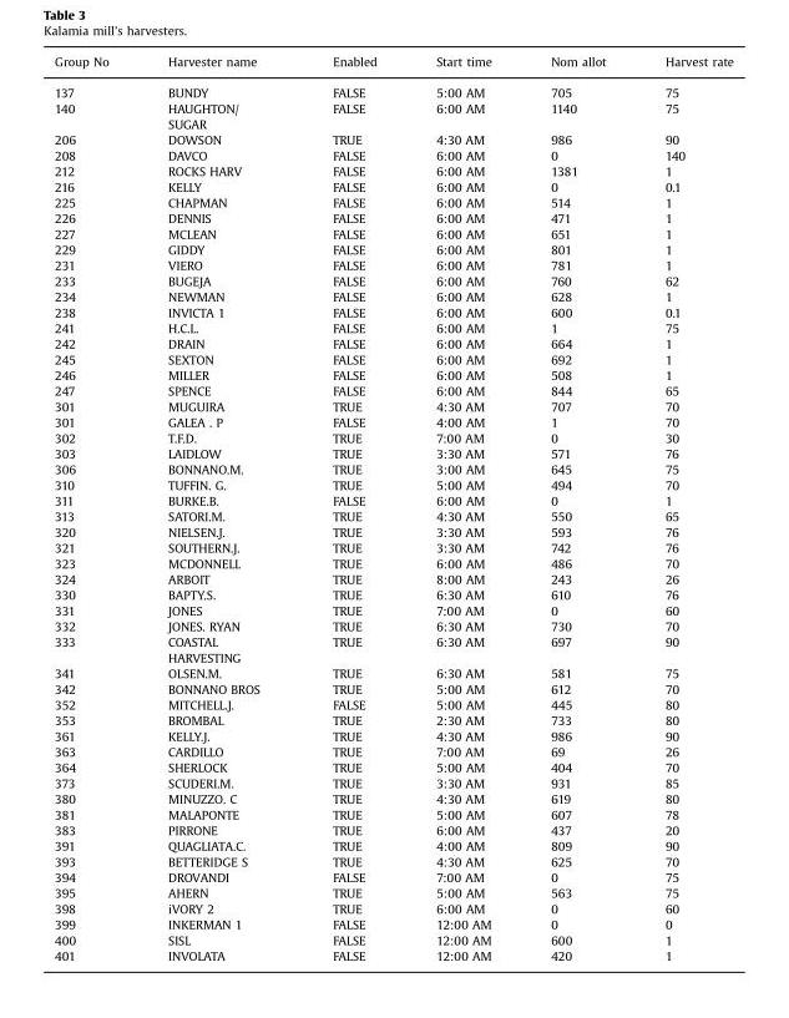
<table><thead><tr><td>Group No</td><td>Harvester name</td><td>Enabled</td><td>Start time</td><td>Nom allot</td><td>Harvest rate</td></tr></thead><tbody><tr><td>137</td><td>BUNDY</td><td>FALSE</td><td>5:00 AM</td><td>705</td><td>75</td></tr><tr><td>140</td><td>HAUGHTON/ SUGAR</td><td>FALSE</td><td>6:00 AM</td><td>1140</td><td>75</td></tr><tr><td>206</td><td>DOWSON</td><td>TRUE</td><td>4:30 AM</td><td>986</td><td>90</td></tr><tr><td>208</td><td>DAVCO</td><td>FALSE</td><td>6:00 AM</td><td>0</td><td>140</td></tr><tr><td>212</td><td>ROCKS HARV</td><td>FALSE</td><td>6:00 AM</td><td>1381</td><td>1</td></tr><tr><td>216</td><td>KELLY</td><td>FALSE</td><td>6:00 AM</td><td>0</td><td>0.1</td></tr><tr><td>225</td><td>CHAPMAN</td><td>FALSE</td><td>6:00 AM</td><td>514</td><td>1</td></tr><tr><td>226</td><td>DENNIS</td><td>FALSE</td><td>6:00 AM</td><td>471</td><td>1</td></tr><tr><td>227</td><td>MCLEAN</td><td>FALSE</td><td>6:00 AM</td><td>651</td><td>1</td></tr><tr><td>229</td><td>GIDDY</td><td>FALSE</td><td>6:00 AM</td><td>801</td><td>1</td></tr><tr><td>231</td><td>VIERO</td><td>FALSE</td><td>6:00 AM</td><td>781</td><td>1</td></tr><tr><td>233</td><td>BUGEJA</td><td>FALSE</td><td>6:00 AM</td><td>760</td><td>62</td></tr><tr><td>234</td><td>NEWMAN</td><td>FALSE</td><td>6:00 AM</td><td>628</td><td>1</td></tr><tr><td>238</td><td>INVICTA 1</td><td>FALSE</td><td>6:00 AM</td><td>600</td><td>0.1</td></tr><tr><td>241</td><td>H.C.L.</td><td>FALSE</td><td>6:00 AM</td><td>1</td><td>75</td></tr><tr><td>242</td><td>DRAIN</td><td>FALSE</td><td>6:00 AM</td><td>664</td><td>1</td></tr><tr><td>245</td><td>SEXTON</td><td>FALSE</td><td>6:00 AM</td><td>692</td><td>1</td></tr><tr><td>246</td><td>MILLER</td><td>FALSE</td><td>6:00 AM</td><td>508</td><td>1</td></tr><tr><td>247</td><td>SPENCE</td><td>FALSE</td><td>6:00 AM</td><td>844</td><td>65</td></tr><tr><td>301</td><td>MUGUIRA</td><td>TRUE</td><td>4:30 AM</td><td>707</td><td>70</td></tr><tr><td>301</td><td>GALEA . P</td><td>FALSE</td><td>4:00 AM</td><td>1</td><td>70</td></tr><tr><td>302</td><td>T.F.D.</td><td>TRUE</td><td>7:00 AM</td><td>0</td><td>30</td></tr><tr><td>303</td><td>LAIDLOW</td><td>TRUE</td><td>3:30 AM</td><td>571</td><td>76</td></tr><tr><td>306</td><td>BONNANO.M.</td><td>TRUE</td><td>3:00 AM</td><td>645</td><td>75</td></tr><tr><td>310</td><td>TUFFIN. G.</td><td>TRUE</td><td>5:00 AM</td><td>494</td><td>70</td></tr><tr><td>311</td><td>BURKE.B.</td><td>FALSE</td><td>6:00 AM</td><td>0</td><td>1</td></tr><tr><td>313</td><td>SATORI.M.</td><td>TRUE</td><td>4:30 AM</td><td>550</td><td>65</td></tr><tr><td>320</td><td>NIELSEN.J.</td><td>TRUE</td><td>3:30 AM</td><td>593</td><td>76</td></tr><tr><td>321</td><td>SOUTHERN.J.</td><td>TRUE</td><td>3:30 AM</td><td>742</td><td>76</td></tr><tr><td>323</td><td>MCDONNELL</td><td>TRUE</td><td>6:00 AM</td><td>486</td><td>70</td></tr><tr><td>324</td><td>ARBOIT</td><td>TRUE</td><td>8:00 AM</td><td>243</td><td>26</td></tr><tr><td>330</td><td>BAPTY.S.</td><td>TRUE</td><td>6:30 AM</td><td>610</td><td>76</td></tr><tr><td>331</td><td>JONES</td><td>TRUE</td><td>7:00 AM</td><td>0</td><td>60</td></tr><tr><td>332</td><td>JONES. RYAN</td><td>TRUE</td><td>6:30 AM</td><td>730</td><td>70</td></tr><tr><td>333</td><td>COASTAL HARVESTING</td><td>TRUE</td><td>6:30 AM</td><td>697</td><td>90</td></tr><tr><td>341</td><td>OLSEN.M.</td><td>TRUE</td><td>6:30 AM</td><td>581</td><td>75</td></tr><tr><td>342</td><td>BONNANO BROS</td><td>TRUE</td><td>5:00 AM</td><td>612</td><td>70</td></tr><tr><td>352</td><td>MITCHELL.J.</td><td>FALSE</td><td>5:00 AM</td><td>445</td><td>80</td></tr><tr><td>353</td><td>BROMBAL</td><td>TRUE</td><td>2:30 AM</td><td>733</td><td>80</td></tr><tr><td>361</td><td>KELLY.J.</td><td>TRUE</td><td>4:30 AM</td><td>986</td><td>90</td></tr><tr><td>363</td><td>CARDILLO</td><td>TRUE</td><td>7:00 AM</td><td>69</td><td>26</td></tr><tr><td>364</td><td>SHERLOCK</td><td>TRUE</td><td>5:00 AM</td><td>404</td><td>70</td></tr><tr><td>373</td><td>SCUDERI.M.</td><td>TRUE</td><td>3:30 AM</td><td>931</td><td>85</td></tr><tr><td>380</td><td>MINUZZO. C</td><td>TRUE</td><td>4:30 AM</td><td>619</td><td>80</td></tr><tr><td>381</td><td>MALAPONTE</td><td>TRUE</td><td>5:00 AM</td><td>607</td><td>78</td></tr><tr><td>383</td><td>PIRRONE</td><td>TRUE</td><td>6:00 AM</td><td>437</td><td>20</td></tr><tr><td>391</td><td>QUAGLIATA.C.</td><td>TRUE</td><td>4:00 AM</td><td>809</td><td>90</td></tr><tr><td>393</td><td>BETTERIDGE S</td><td>TRUE</td><td>4:30 AM</td><td>625</td><td>70</td></tr><tr><td>394</td><td>DROVANDI</td><td>FALSE</td><td>7:00 AM</td><td>0</td><td>75</td></tr><tr><td>395</td><td>AHERN</td><td>TRUE</td><td>5:00 AM</td><td>563</td><td>75</td></tr><tr><td>398</td><td>iVORY 2</td><td>TRUE</td><td>6:00 AM</td><td>0</td><td>60</td></tr><tr><td>399</td><td>INKERMAN 1</td><td>FALSE</td><td>12:00 AM</td><td>0</td><td>0</td></tr><tr><td>400</td><td>SISL</td><td>FALSE</td><td>12:00 AM</td><td>600</td><td>1</td></tr><tr><td>401</td><td>INVOLATA</td><td>FALSE</td><td>12:00 AM</td><td>420</td><td>1</td></tr></tbody></table>